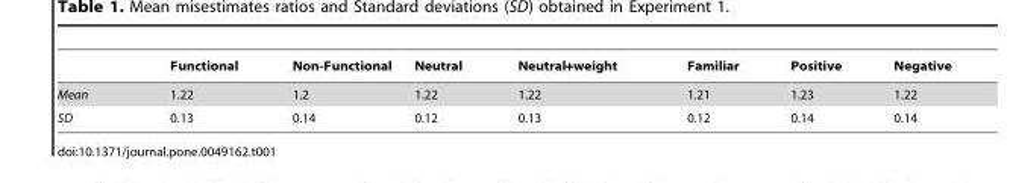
<table><thead><tr><td></td><td>Functional</td><td>Non-Functional</td><td>Neutral</td><td>Neutral+weight</td><td>Familiar</td><td>Positive</td><td>Negative</td></tr></thead><tbody><tr><td>Mean</td><td>1.22</td><td>1.2</td><td>1.22</td><td>1.22</td><td>1.21</td><td>1.23</td><td>1.22</td></tr><tr><td>SD</td><td>0.13</td><td>0.14</td><td>0.12</td><td>0.13</td><td>0.12</td><td>0.14</td><td>0.14</td></tr></tbody></table>